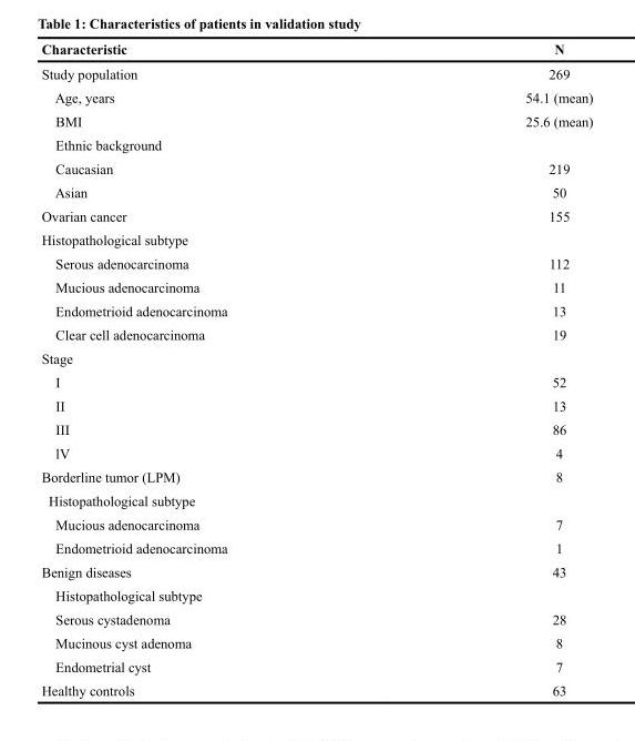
<table><thead><tr><td>Characteristic</td><td>N</td></tr></thead><tbody><tr><td>Study population</td><td>269</td></tr><tr><td>Age, years</td><td>54.1 (mean)</td></tr><tr><td>BMI</td><td>25.6 (mean)</td></tr><tr><td colspan="2">Ethnic background</td></tr><tr><td>Caucasian</td><td>219</td></tr><tr><td>Asian</td><td>50</td></tr><tr><td>Ovarian cancer</td><td>155</td></tr><tr><td colspan="2">Histopathological subtype</td></tr><tr><td>Serous adenocarcinoma</td><td>112</td></tr><tr><td>Mucious adenocarcinoma</td><td>11</td></tr><tr><td>Endometrioid adenocarcinoma</td><td>13</td></tr><tr><td>Clear cell adenocarcinoma</td><td>19</td></tr><tr><td colspan="2">Stage</td></tr><tr><td>I</td><td>52</td></tr><tr><td>II</td><td>13</td></tr><tr><td>III</td><td>86</td></tr><tr><td>lV</td><td>4</td></tr><tr><td>Borderline tumor (LPM)</td><td>8</td></tr><tr><td colspan="2">Histopathological subtype</td></tr><tr><td>Mucious adenocarcinoma</td><td>7</td></tr><tr><td>Endometrioid adenocarcinoma</td><td>1</td></tr><tr><td>Benign diseases</td><td>43</td></tr><tr><td colspan="2">Histopathological subtype</td></tr><tr><td>Serous cystadenoma</td><td>28</td></tr><tr><td>Mucinous cyst adenoma</td><td>8</td></tr><tr><td>Endometrial cyst</td><td>7</td></tr><tr><td>Healthy controls</td><td>63</td></tr></tbody></table>